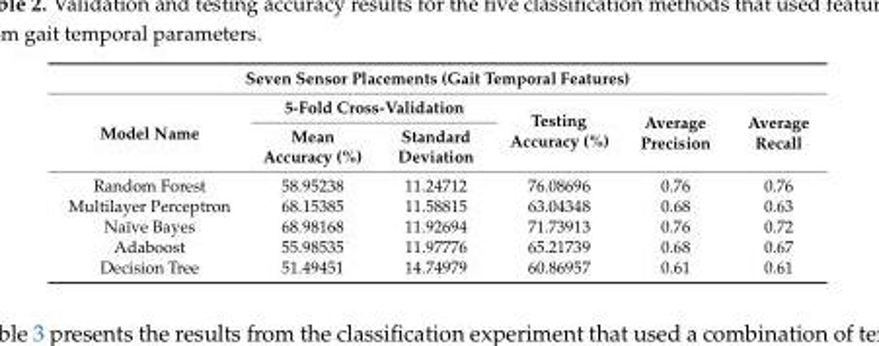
<table><thead><tr><td colspan="6">Seven Sensor Placements (Gait Temporal Features)</td></tr><tr><td rowspan="2">Model Name</td><td colspan="2">5-Fold Cross-Validation</td><td rowspan="2">Testing Accuracy (%)</td><td rowspan="2">Average Precision</td><td rowspan="2">Average Recall</td></tr><tr><td>Mean Accuracy (%)</td><td>Standard Deviation</td></tr></thead><tbody><tr><td>Random Forest</td><td>58.95238</td><td>11.24712</td><td>76.08696</td><td>0.76</td><td>0.76</td></tr><tr><td>Multilayer Perceptron</td><td>68.15385</td><td>11.58815</td><td>63.04348</td><td>0.68</td><td>0.63</td></tr><tr><td>Naïve Bayes</td><td>68.98168</td><td>11.92694</td><td>71.73913</td><td>0.76</td><td>0.72</td></tr><tr><td>Adaboost</td><td>55.98535</td><td>11.97776</td><td>65.21739</td><td>0.68</td><td>0.67</td></tr><tr><td>Decision Tree</td><td>51.49451</td><td>14.74979</td><td>60.86957</td><td>0.61</td><td>0.61</td></tr></tbody></table>